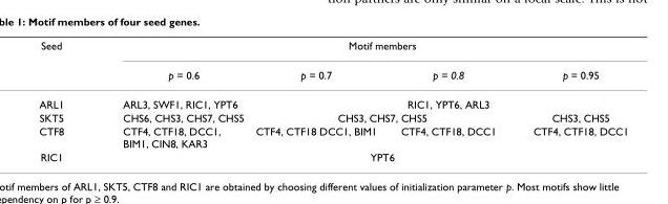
<table><thead><tr><td rowspan="2">Seed</td><td colspan="4">Motif members</td></tr><tr><td>p = 0.6</td><td>p = 0.7</td><td>p = 0.8</td><td>p = 0.95</td></tr></thead><tbody><tr><td>ARL1</td><td>ARL3, SWF1, RIC1, YPT6</td><td colspan="3">RIC1, YPT6, ARL3</td></tr><tr><td>SKT5</td><td>CHS6, CHS3, CHS7, CHS5</td><td colspan="2">CHS3, CHS7, CHS5</td><td>CHS3, CHS5</td></tr><tr><td>CTF8</td><td>CTF4, CTF18, DCC1, BIM1, CIN8, KAR3</td><td>CTF4, CTF18 DCC1, BIM1</td><td>CTF4, CTF18, DCC1</td><td>CTF4, CTF18, DCC1</td></tr><tr><td>RIC1</td><td colspan="4">YPT6</td></tr></tbody></table>